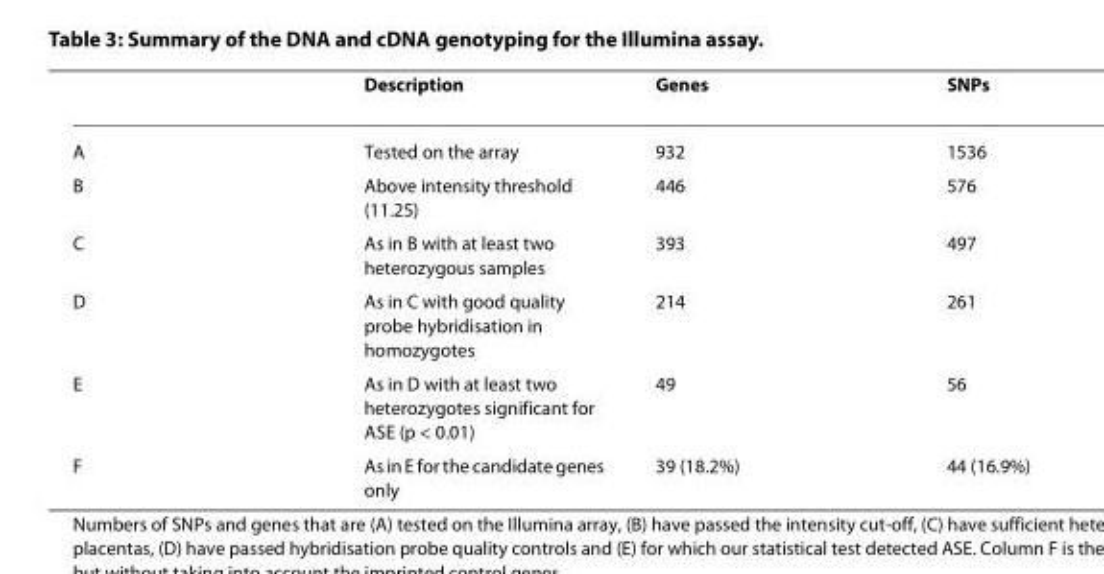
<table><thead><tr><td></td><td>Description</td><td>Genes</td><td>SNPs</td></tr></thead><tbody><tr><td>A</td><td>Tested on the array</td><td>932</td><td>1536</td></tr><tr><td>B</td><td>Above intensity threshold (11.25)</td><td>446</td><td>576</td></tr><tr><td>C</td><td>As in B with at least two heterozygous samples</td><td>393</td><td>497</td></tr><tr><td>D</td><td>As in C with good quality probe hybridisation in homozygotes</td><td>214</td><td>261</td></tr><tr><td>E</td><td>As in D with at least two heterozygotes significant for ASE (p &lt; 0.01)</td><td>49</td><td>56</td></tr><tr><td>F</td><td>As in E for the candidate genes only</td><td>39 (18.2%)</td><td>44 (16.9%)</td></tr></tbody></table>